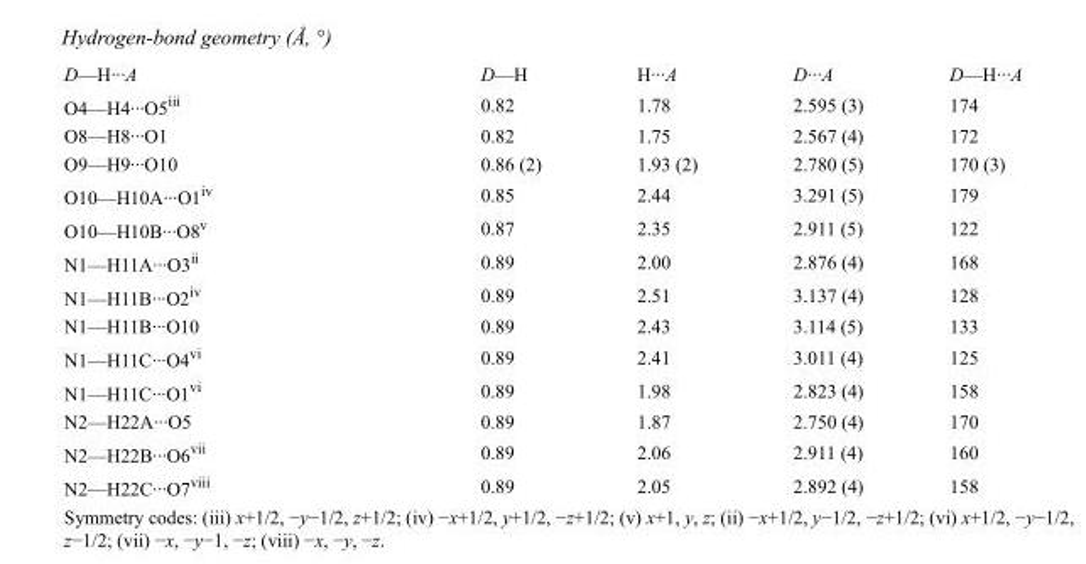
<table><tbody><tr><td>D—H···A</td><td>D—H</td><td>H···A</td><td>D···A</td><td>D—H···A</td></tr><tr><td>O4—H4···O5<sup>iii</sup></td><td>0.82</td><td>1.78</td><td>2.595 (3)</td><td>174</td></tr><tr><td>O8—H8···O1</td><td>0.82</td><td>1.75</td><td>2.567 (4)</td><td>172</td></tr><tr><td>O9—H9···O10</td><td>0.86 (2)</td><td>1.93 (2)</td><td>2.780 (5)</td><td>170 (3)</td></tr><tr><td>O10—H10A···O1<sup>iv</sup></td><td>0.85</td><td>2.44</td><td>3.291 (5)</td><td>179</td></tr><tr><td>O10—H10B···O8<sup>v</sup></td><td>0.87</td><td>2.35</td><td>2.911 (5)</td><td>122</td></tr><tr><td>N1—H11A···O3<sup>ii</sup></td><td>0.89</td><td>2.00</td><td>2.876 (4)</td><td>168</td></tr><tr><td>N1—H11B···O2<sup>iv</sup></td><td>0.89</td><td>2.51</td><td>3.137 (4)</td><td>128</td></tr><tr><td>N1—H11B···O10</td><td>0.89</td><td>2.43</td><td>3.114 (5)</td><td>133</td></tr><tr><td>N1—H11C···O4<sup>vi</sup></td><td>0.89</td><td>2.41</td><td>3.011 (4)</td><td>125</td></tr><tr><td>N1—H11C···O1<sup>vi</sup></td><td>0.89</td><td>1.98</td><td>2.823 (4)</td><td>158</td></tr><tr><td>N2—H22A···O5</td><td>0.89</td><td>1.87</td><td>2.750 (4)</td><td>170</td></tr><tr><td>N2—H22B···O6<sup>vii</sup></td><td>0.89</td><td>2.06</td><td>2.911 (4)</td><td>160</td></tr><tr><td>N2—H22C···O7<sup>viii</sup></td><td>0.89</td><td>2.05</td><td>2.892 (4)</td><td>158</td></tr></tbody></table>